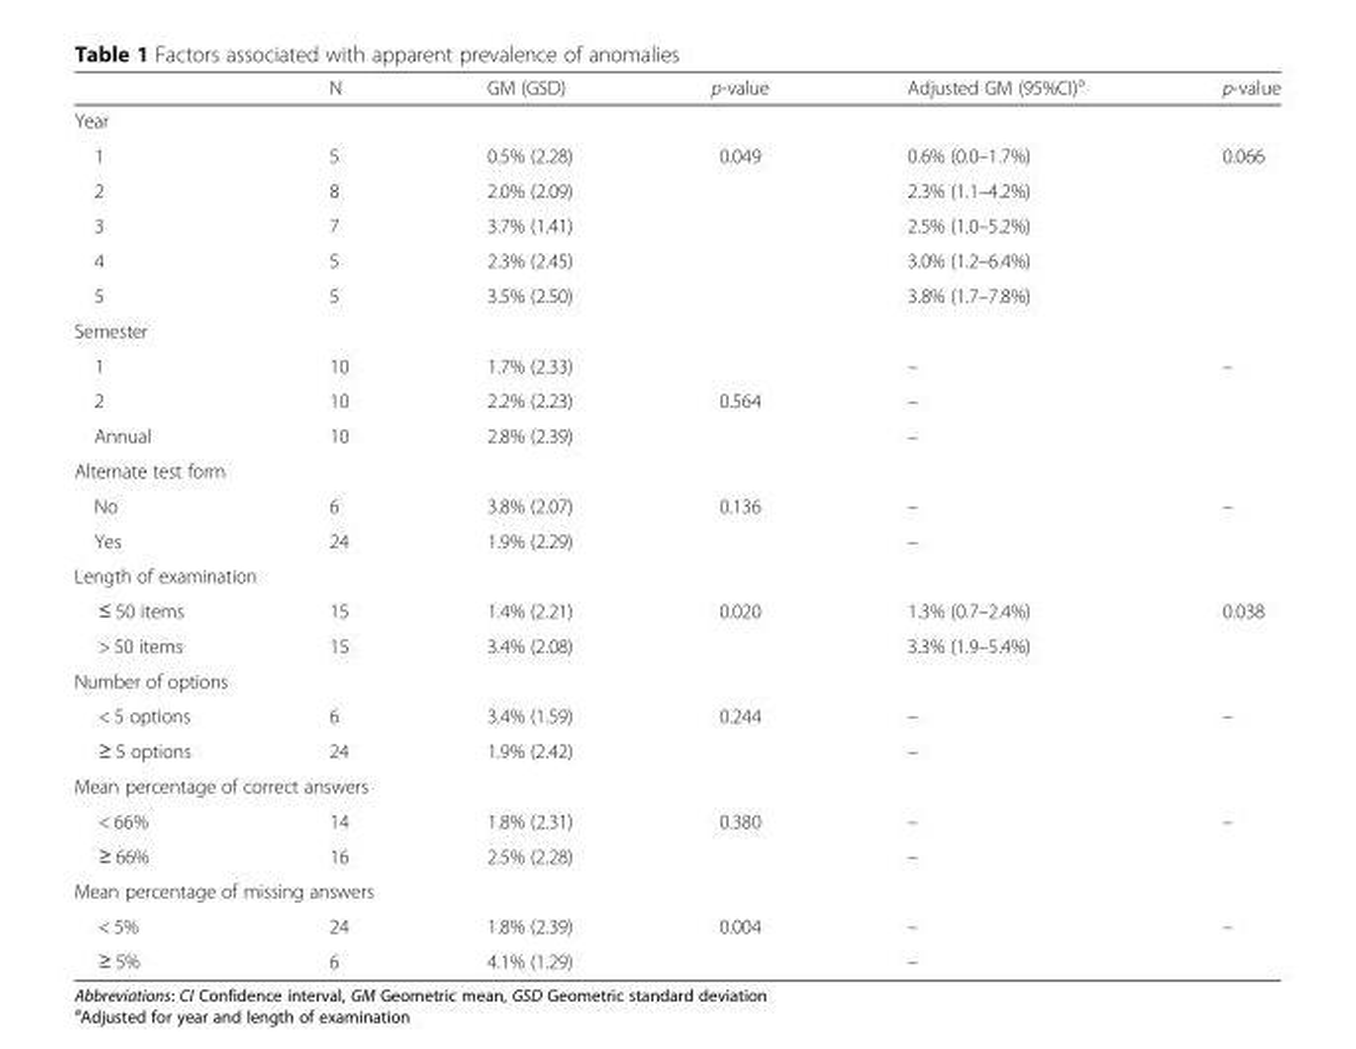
<table><thead><tr><td></td><td>N</td><td>GM (GSD)</td><td>p-value</td><td>Adjusted GM (95%CI)<sup>a</sup></td><td>p-value</td></tr></thead><tbody><tr><td colspan="6">Year</td></tr><tr><td>1</td><td>5</td><td>0.5% (2.28)</td><td rowspan="5">0.049</td><td>0.6% (0.0–1.7%)</td><td rowspan="5">0.066</td></tr><tr><td>2</td><td>8</td><td>2.0% (2.09)</td><td>2.3% (1.1–4.2%)</td></tr><tr><td>3</td><td>7</td><td>3.7% (1.41)</td><td>2.5% (1.0–5.2%)</td></tr><tr><td>4</td><td>5</td><td>2.3% (2.45)</td><td>3.0% (1.2–6.4%)</td></tr><tr><td>5</td><td>5</td><td>3.5% (2.50)</td><td>3.8% (1.7–7.8%)</td></tr><tr><td colspan="6">Semester</td></tr><tr><td>1</td><td>10</td><td>1.7% (2.33)</td><td></td><td>–</td><td rowspan="3">–</td></tr><tr><td>2</td><td>10</td><td>2.2% (2.23)</td><td>0.564</td><td>–</td></tr><tr><td>Annual</td><td>10</td><td>2.8% (2.39)</td><td></td><td>–</td></tr><tr><td colspan="6">Alternate test form</td></tr><tr><td>No</td><td>6</td><td>3.8% (2.07)</td><td rowspan="2">0.136</td><td>–</td><td rowspan="2">–</td></tr><tr><td>Yes</td><td>24</td><td>1.9% (2.29)</td><td>–</td></tr><tr><td colspan="6">Length of examination</td></tr><tr><td>≤ 50 items</td><td>15</td><td>1.4% (2.21)</td><td rowspan="2">0.020</td><td>1.3% (0.7–2.4%)</td><td rowspan="2">0.038</td></tr><tr><td>&gt; 50 items</td><td>15</td><td>3.4% (2.08)</td><td>3.3% (1.9–5.4%)</td></tr><tr><td colspan="6">Number of options</td></tr><tr><td>&lt; 5 options</td><td>6</td><td>3.4% (1.59)</td><td>0.244</td><td>–</td><td>–</td></tr><tr><td>≥ 5 options</td><td>24</td><td>1.9% (2.42)</td><td></td><td>–</td><td></td></tr><tr><td colspan="6">Mean percentage of correct answers</td></tr><tr><td>&lt; 66%</td><td>14</td><td>1.8% (2.31)</td><td>0.380</td><td>–</td><td>–</td></tr><tr><td>≥ 66%</td><td>16</td><td>2.5% (2.28)</td><td></td><td>–</td><td></td></tr><tr><td colspan="6">Mean percentage of missing answers</td></tr><tr><td>&lt; 5%</td><td>24</td><td>1.8% (2.39)</td><td>0.004</td><td>–</td><td>–</td></tr><tr><td>≥ 5%</td><td>6</td><td>4.1% (1.29)</td><td></td><td>–</td><td></td></tr></tbody></table>